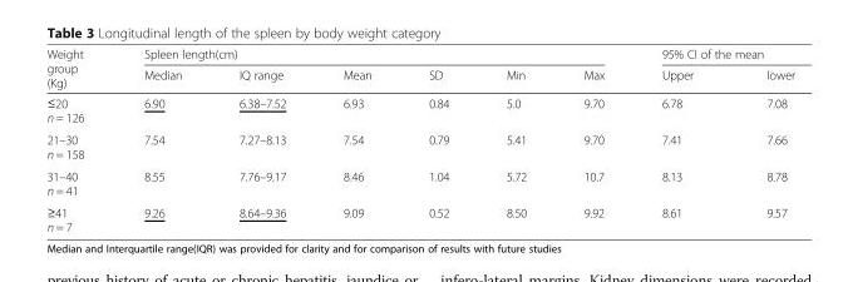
<table><thead><tr><td rowspan="2">Weight group (Kg)</td><td colspan="6">Spleen length(cm)</td><td colspan="2">95% CI of the mean</td></tr><tr><td>Median</td><td>IQ range</td><td>Mean</td><td>SD</td><td>Min</td><td>Max</td><td>Upper</td><td>lower</td></tr></thead><tbody><tr><td>≤20 n = 126</td><td>6.90</td><td>6.38–7.52</td><td>6.93</td><td>0.84</td><td>5.0</td><td>9.70</td><td>6.78</td><td>7.08</td></tr><tr><td>21–30 n = 158</td><td>7.54</td><td>7.27–8.13</td><td>7.54</td><td>0.79</td><td>5.41</td><td>9.70</td><td>7.41</td><td>7.66</td></tr><tr><td>31–40 n = 41</td><td>8.55</td><td>7.76–9.17</td><td>8.46</td><td>1.04</td><td>5.72</td><td>10.7</td><td>8.13</td><td>8.78</td></tr><tr><td>≥41 n = 7</td><td>9.26</td><td>8.64–9.36</td><td>9.09</td><td>0.52</td><td>8.50</td><td>9.92</td><td>8.61</td><td>9.57</td></tr></tbody></table>